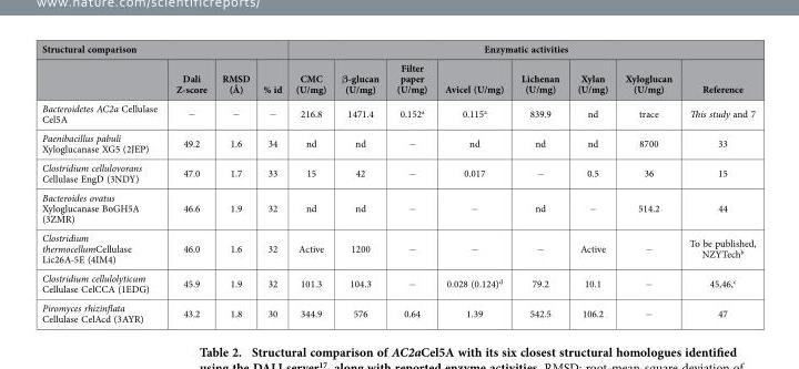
<table><thead><tr><td colspan="4">Structural comparison</td><td colspan="8">Enzymatic activities</td></tr><tr><td></td><td>Dali Z-score</td><td>RMSD (Å)</td><td>% id</td><td>CMC (U/mg)</td><td>β-glucan (U/mg)</td><td>Filter paper (U/mg)</td><td>Avicel (U/mg)</td><td>Lichenan (U/mg)</td><td>Xylan (U/mg)</td><td>Xyloglucan (U/mg)</td><td>Reference</td></tr></thead><tbody><tr><td>Bacteroidetes AC2a Cellulase Cel5A</td><td>−</td><td>−</td><td>−</td><td>216.8</td><td>1471.4</td><td>0.152<sup>a</sup></td><td>0.115<sup>a</sup></td><td>839.9</td><td>nd</td><td>trace</td><td>This study and 7</td></tr><tr><td>Paenibacillus pabuli Xyloglucanase XG5 (2JEP)</td><td>49.2</td><td>1.6</td><td>34</td><td>nd</td><td>nd</td><td>−</td><td>nd</td><td>nd</td><td>nd</td><td>8700</td><td>33</td></tr><tr><td>Clostridium cellulovorans Cellulase EngD (3NDY)</td><td>47.0</td><td>1.7</td><td>33</td><td>15</td><td>42</td><td>−</td><td>0.017</td><td>−</td><td>0.5</td><td>36</td><td>15</td></tr><tr><td>Bacteroides ovatus Xyloglucanase BoGH5A (3ZMR)</td><td>46.6</td><td>1.9</td><td>32</td><td>nd</td><td>nd</td><td>−</td><td>−</td><td>nd</td><td>−</td><td>514.2</td><td>44</td></tr><tr><td>Clostridium thermocellumCellulase Lic26A-5E (4IM4)</td><td>46.0</td><td>1.6</td><td>32</td><td>Active</td><td>1200</td><td>−</td><td>−</td><td>−</td><td>Active</td><td>−</td><td>To be published, NZYTech<sup>b</sup></td></tr><tr><td>Clostridium cellulolyticum Cellulase CelCCA (1EDG)</td><td>45.9</td><td>1.9</td><td>32</td><td>101.3</td><td>104.3</td><td>−</td><td>0.028 (0.124)<sup>d</sup></td><td>79.2</td><td>10.1</td><td>−</td><td>45,46,c</td></tr><tr><td>Piromyces rhizinflata Cellulase CelAcd (3AYR)</td><td>43.2</td><td>1.8</td><td>30</td><td>344.9</td><td>576</td><td>0.64</td><td>1.39</td><td>542.5</td><td>106.2</td><td>−</td><td>47</td></tr></tbody></table>